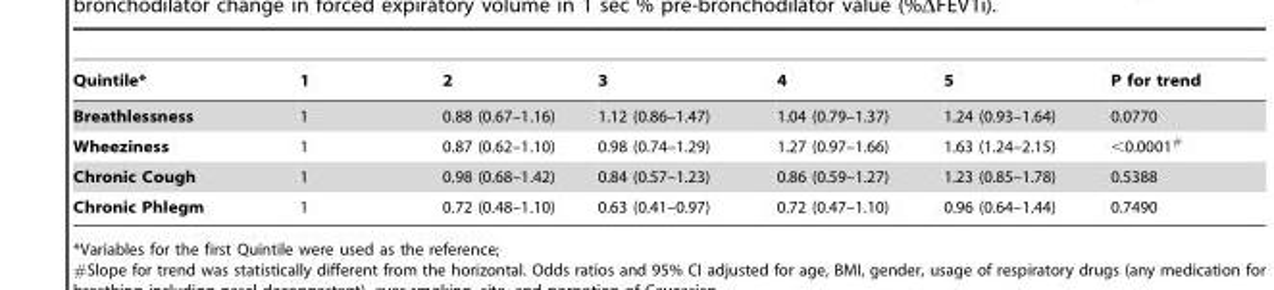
<table><thead><tr><td>Quintile*</td><td>1</td><td>2</td><td>3</td><td>4</td><td>5</td><td>P for trend</td></tr></thead><tbody><tr><td>Breathlessness</td><td>1</td><td>0.88 (0.67–1.16)</td><td>1.12 (0.86–1.47)</td><td>1.04 (0.79–1.37)</td><td>1.24 (0.93–1.64)</td><td>0.0770</td></tr><tr><td>Wheeziness</td><td>1</td><td>0.87 (0.62–1.10)</td><td>0.98 (0.74–1.29)</td><td>1.27 (0.97–1.66)</td><td>1.63 (1.24–2.15)</td><td>&lt;0.0001<sup>#</sup></td></tr><tr><td>Chronic Cough</td><td>1</td><td>0.98 (0.68–1.42)</td><td>0.84 (0.57–1.23)</td><td>0.86 (0.59–1.27)</td><td>1.23 (0.85–1.78)</td><td>0.5388</td></tr><tr><td>Chronic Phlegm</td><td>1</td><td>0.72 (0.48–1.10)</td><td>0.63 (0.41–0.97)</td><td>0.72 (0.47–1.10)</td><td>0.96 (0.64–1.44)</td><td>0.7490</td></tr></tbody></table>